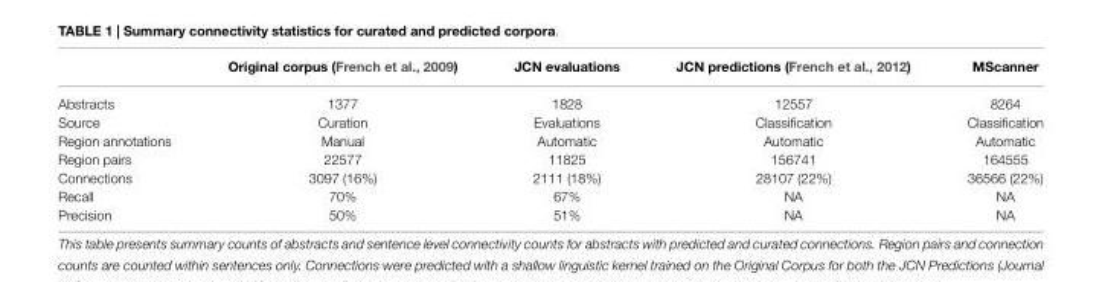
<table><thead><tr><td></td><td>Original corpus (French et al., 2009)</td><td>JCN evaluations</td><td>JCN predictions (French et al., 2012)</td><td>MScanner</td></tr></thead><tbody><tr><td>Abstracts</td><td>1377</td><td>1828</td><td>12557</td><td>8264</td></tr><tr><td>Source</td><td>Curation</td><td>Evaluations</td><td>Classification</td><td>Classification</td></tr><tr><td>Region annotations</td><td>Manual</td><td>Automatic</td><td>Automatic</td><td>Automatic</td></tr><tr><td>Region pairs</td><td>22577</td><td>11825</td><td>156741</td><td>164555</td></tr><tr><td>Connections</td><td>3097 (16%)</td><td>2111 (18%)</td><td>28107 (22%)</td><td>36566 (22%)</td></tr><tr><td>Recall</td><td>70%</td><td>67%</td><td>NA</td><td>NA</td></tr><tr><td>Precision</td><td>50%</td><td>51%</td><td>NA</td><td>NA</td></tr></tbody></table>